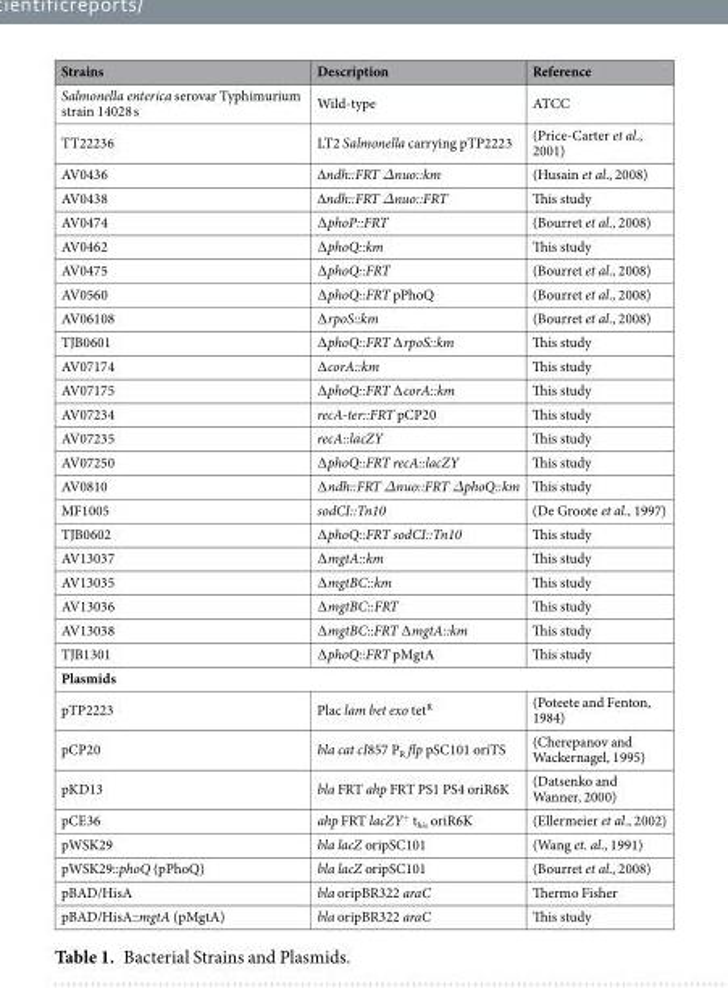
<table><thead><tr><td>Strains</td><td>Description</td><td>Reference</td></tr></thead><tbody><tr><td>Salmonella enterica serovar Typhimurium strain 14028 s</td><td>Wild-type</td><td>ATCC</td></tr><tr><td>TT22236</td><td>LT2 Salmonella carrying pTP2223</td><td>(Price-Carter et al., 2001)</td></tr><tr><td>AV0436</td><td>∆ndh::FRT Δnuo::km</td><td>(Husain et al., 2008)</td></tr><tr><td>AV0438</td><td>∆ndh::FRT Δnuo::FRT</td><td>This study</td></tr><tr><td>AV0474</td><td>∆phoP::FRT</td><td>(Bourret et al., 2008)</td></tr><tr><td>AV0462</td><td>∆phoQ::km</td><td>This study</td></tr><tr><td>AV0475</td><td>∆phoQ::FRT</td><td>(Bourret et al., 2008)</td></tr><tr><td>AV0560</td><td>∆phoQ::FRT pPhoQ</td><td>(Bourret et al., 2008)</td></tr><tr><td>AV06108</td><td>∆rpoS::km</td><td>(Bourret et al., 2008)</td></tr><tr><td>TJB0601</td><td>∆phoQ::FRT ∆rpoS::km</td><td>This study</td></tr><tr><td>AV07174</td><td>∆corA::km</td><td>This study</td></tr><tr><td>AV07175</td><td>∆phoQ::FRT ∆corA::km</td><td>This study</td></tr><tr><td>AV07234</td><td>recA-ter::FRT pCP20</td><td>This study</td></tr><tr><td>AV07235</td><td>recA::lacZY</td><td>This study</td></tr><tr><td>AV07250</td><td>∆phoQ::FRT recA::lacZY</td><td>This study</td></tr><tr><td>AV0810</td><td>∆ndh::FRT Δnuo::FRT ΔphoQ::km</td><td>This study</td></tr><tr><td>MF1005</td><td>sodCI::Tn10</td><td>(De Groote et al., 1997)</td></tr><tr><td>TJB0602</td><td>∆phoQ::FRT sodCI::Tn10</td><td>This study</td></tr><tr><td>AV13037</td><td>∆mgtA::km</td><td>This study</td></tr><tr><td>AV13035</td><td>∆mgtBC::km</td><td>This study</td></tr><tr><td>AV13036</td><td>∆mgtBC::FRT</td><td>This study</td></tr><tr><td>AV13038</td><td>∆mgtBC::FRT ∆mgtA::km</td><td>This study</td></tr><tr><td>TJB1301</td><td>∆phoQ::FRT pMgtA</td><td>This study</td></tr><tr><td colspan="3">Plasmids</td></tr><tr><td>pTP2223</td><td>Plac lam bet exo tet<sup>R</sup></td><td>(Poteete and Fenton, 1984)</td></tr><tr><td>pCP20</td><td>bla cat cI857 P<sub>R</sub> flp pSC101 oriTS</td><td>(Cherepanov and Wackernagel, 1995)</td></tr><tr><td>pKD13</td><td>bla FRT ahp FRT PS1 PS4 oriR6K</td><td>(Datsenko and Wanner, 2000)</td></tr><tr><td>pCE36</td><td>ahp FRT lacZY<sup>+</sup> t<sub>his</sub> oriR6K</td><td>(Ellermeier et al., 2002)</td></tr><tr><td>pWSK29</td><td>bla lacZ oripSC101</td><td>(Wang et. al., 1991)</td></tr><tr><td>pWSK29::phoQ (pPhoQ)</td><td>bla lacZ oripSC101</td><td>(Bourret et al., 2008)</td></tr><tr><td>pBAD/HisA</td><td>bla oripBR322 araC</td><td>Thermo Fisher</td></tr><tr><td>pBAD/HisA::mgtA (pMgtA)</td><td>bla oripBR322 araC</td><td>This study</td></tr></tbody></table>